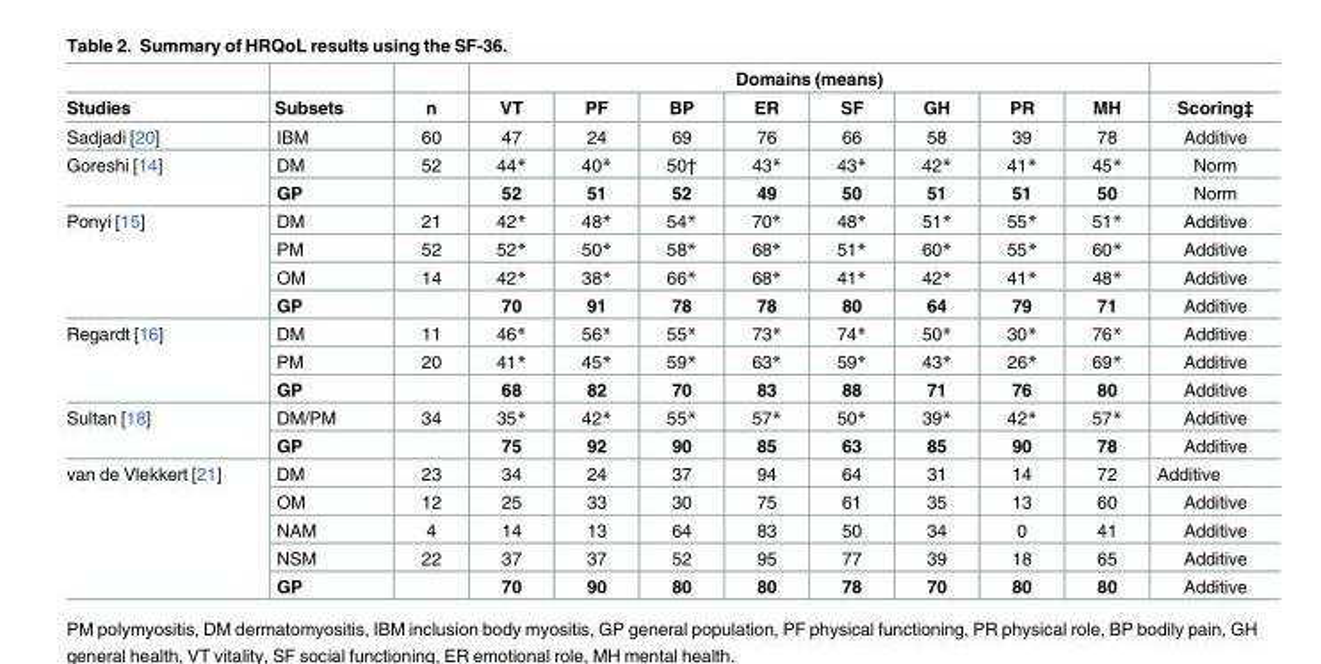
<table><thead><tr><td rowspan="2">Studies</td><td rowspan="2">Subsets</td><td rowspan="2">n</td><td colspan="8">Domains (means)</td><td rowspan="2">Scoring‡</td></tr><tr><td>VT</td><td>PF</td><td>BP</td><td>ER</td><td>SF</td><td>GH</td><td>PR</td><td>MH</td></tr></thead><tbody><tr><td>Sadjadi [20]</td><td>IBM</td><td>60</td><td>47</td><td>24</td><td>69</td><td>76</td><td>66</td><td>58</td><td>39</td><td>78</td><td>Additive</td></tr><tr><td rowspan="2">Goreshi [14]</td><td>DM</td><td>52</td><td>44*</td><td>40*</td><td>50†</td><td>43*</td><td>43*</td><td>42*</td><td>41*</td><td>45*</td><td>Norm</td></tr><tr><td>GP</td><td></td><td>52</td><td>51</td><td>52</td><td>49</td><td>50</td><td>51</td><td>51</td><td>50</td><td>Norm</td></tr><tr><td rowspan="4">Ponyi [15]</td><td>DM</td><td>21</td><td>42*</td><td>48*</td><td>54*</td><td>70*</td><td>48*</td><td>51*</td><td>55*</td><td>51*</td><td>Additive</td></tr><tr><td>PM</td><td>52</td><td>52*</td><td>50*</td><td>58*</td><td>68*</td><td>51*</td><td>60*</td><td>55*</td><td>60*</td><td>Additive</td></tr><tr><td>OM</td><td>14</td><td>42*</td><td>38*</td><td>66*</td><td>68*</td><td>41*</td><td>42*</td><td>41*</td><td>48*</td><td>Additive</td></tr><tr><td>GP</td><td></td><td>70</td><td>91</td><td>78</td><td>78</td><td>80</td><td>64</td><td>79</td><td>71</td><td>Additive</td></tr><tr><td rowspan="3">Regardt [16]</td><td>DM</td><td>11</td><td>46*</td><td>56*</td><td>55*</td><td>73*</td><td>74*</td><td>50*</td><td>30*</td><td>76*</td><td>Additive</td></tr><tr><td>PM</td><td>20</td><td>41*</td><td>45*</td><td>59*</td><td>63*</td><td>59*</td><td>43*</td><td>26*</td><td>69*</td><td>Additive</td></tr><tr><td>GP</td><td></td><td>68</td><td>82</td><td>70</td><td>83</td><td>88</td><td>71</td><td>76</td><td>80</td><td>Additive</td></tr><tr><td rowspan="2">Sultan [18]</td><td>DM/PM</td><td>34</td><td>35*</td><td>42*</td><td>55*</td><td>57*</td><td>50*</td><td>39*</td><td>42*</td><td>57*</td><td>Additive</td></tr><tr><td>GP</td><td></td><td>75</td><td>92</td><td>90</td><td>85</td><td>63</td><td>85</td><td>90</td><td>78</td><td>Additive</td></tr><tr><td rowspan="5">van de Vlekkert [21]</td><td>DM</td><td>23</td><td>34</td><td>24</td><td>37</td><td>94</td><td>64</td><td>31</td><td>14</td><td>72</td><td>Additive</td></tr><tr><td>OM</td><td>12</td><td>25</td><td>33</td><td>30</td><td>75</td><td>61</td><td>35</td><td>13</td><td>60</td><td>Additive</td></tr><tr><td>NAM</td><td>4</td><td>14</td><td>13</td><td>64</td><td>83</td><td>50</td><td>34</td><td>0</td><td>41</td><td>Additive</td></tr><tr><td>NSM</td><td>22</td><td>37</td><td>37</td><td>52</td><td>95</td><td>77</td><td>39</td><td>18</td><td>65</td><td>Additive</td></tr><tr><td>GP</td><td></td><td>70</td><td>90</td><td>80</td><td>80</td><td>78</td><td>70</td><td>80</td><td>80</td><td>Additive</td></tr></tbody></table>